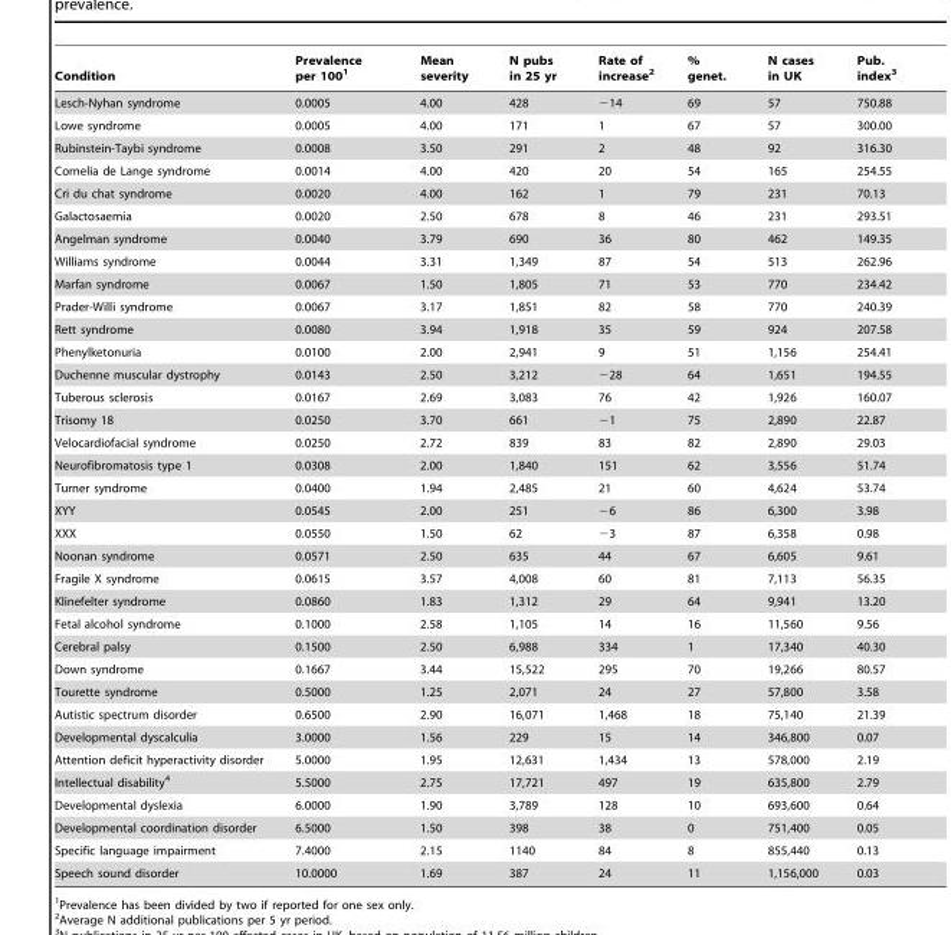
<table><thead><tr><td>Condition</td><td>Prevalence per 100<sup>1</sup></td><td>Mean severity</td><td>N pubs in 25 yr</td><td>Rate of increase<sup>2</sup></td><td>% genet.</td><td>N cases in UK</td><td>Pub. index<sup>3</sup></td></tr></thead><tbody><tr><td>Lesch-Nyhan syndrome</td><td>0.0005</td><td>4.00</td><td>428</td><td>−14</td><td>69</td><td>57</td><td>750.88</td></tr><tr><td>Lowe syndrome</td><td>0.0005</td><td>4.00</td><td>171</td><td>1</td><td>67</td><td>57</td><td>300.00</td></tr><tr><td>Rubinstein-Taybi syndrome</td><td>0.0008</td><td>3.50</td><td>291</td><td>2</td><td>48</td><td>92</td><td>316.30</td></tr><tr><td>Cornelia de Lange syndrome</td><td>0.0014</td><td>4.00</td><td>420</td><td>20</td><td>54</td><td>165</td><td>254.55</td></tr><tr><td>Cri du chat syndrome</td><td>0.0020</td><td>4.00</td><td>162</td><td>1</td><td>79</td><td>231</td><td>70.13</td></tr><tr><td>Galactosaemia</td><td>0.0020</td><td>2.50</td><td>678</td><td>8</td><td>46</td><td>231</td><td>293.51</td></tr><tr><td>Angelman syndrome</td><td>0.0040</td><td>3.79</td><td>690</td><td>36</td><td>80</td><td>462</td><td>149.35</td></tr><tr><td>Williams syndrome</td><td>0.0044</td><td>3.31</td><td>1,349</td><td>87</td><td>54</td><td>513</td><td>262.96</td></tr><tr><td>Marfan syndrome</td><td>0.0067</td><td>1.50</td><td>1,805</td><td>71</td><td>53</td><td>770</td><td>234.42</td></tr><tr><td>Prader-Willi syndrome</td><td>0.0067</td><td>3.17</td><td>1,851</td><td>82</td><td>58</td><td>770</td><td>240.39</td></tr><tr><td>Rett syndrome</td><td>0.0080</td><td>3.94</td><td>1,918</td><td>35</td><td>59</td><td>924</td><td>207.58</td></tr><tr><td>Phenylketonuria</td><td>0.0100</td><td>2.00</td><td>2,941</td><td>9</td><td>51</td><td>1,156</td><td>254.41</td></tr><tr><td>Duchenne muscular dystrophy</td><td>0.0143</td><td>2.50</td><td>3,212</td><td>−28</td><td>64</td><td>1,651</td><td>194.55</td></tr><tr><td>Tuberous sclerosis</td><td>0.0167</td><td>2.69</td><td>3,083</td><td>76</td><td>42</td><td>1,926</td><td>160.07</td></tr><tr><td>Trisomy 18</td><td>0.0250</td><td>3.70</td><td>661</td><td>−1</td><td>75</td><td>2,890</td><td>22.87</td></tr><tr><td>Velocardiofacial syndrome</td><td>0.0250</td><td>2.72</td><td>839</td><td>83</td><td>82</td><td>2,890</td><td>29.03</td></tr><tr><td>Neurofibromatosis type 1</td><td>0.0308</td><td>2.00</td><td>1,840</td><td>151</td><td>62</td><td>3,556</td><td>51.74</td></tr><tr><td>Turner syndrome</td><td>0.0400</td><td>1.94</td><td>2,485</td><td>21</td><td>60</td><td>4,624</td><td>53.74</td></tr><tr><td>XYY</td><td>0.0545</td><td>2.00</td><td>251</td><td>−6</td><td>86</td><td>6,300</td><td>3.98</td></tr><tr><td>XXX</td><td>0.0550</td><td>1.50</td><td>62</td><td>−3</td><td>87</td><td>6,358</td><td>0.98</td></tr><tr><td>Noonan syndrome</td><td>0.0571</td><td>2.50</td><td>635</td><td>44</td><td>67</td><td>6,605</td><td>9.61</td></tr><tr><td>Fragile X syndrome</td><td>0.0615</td><td>3.57</td><td>4,008</td><td>60</td><td>81</td><td>7,113</td><td>56.35</td></tr><tr><td>Klinefelter syndrome</td><td>0.0860</td><td>1.83</td><td>1,312</td><td>29</td><td>64</td><td>9,941</td><td>13.20</td></tr><tr><td>Fetal alcohol syndrome</td><td>0.1000</td><td>2.58</td><td>1,105</td><td>14</td><td>16</td><td>11,560</td><td>9.56</td></tr><tr><td>Cerebral palsy</td><td>0.1500</td><td>2.50</td><td>6,988</td><td>334</td><td>1</td><td>17,340</td><td>40.30</td></tr><tr><td>Down syndrome</td><td>0.1667</td><td>3.44</td><td>15,522</td><td>295</td><td>70</td><td>19,266</td><td>80.57</td></tr><tr><td>Tourette syndrome</td><td>0.5000</td><td>1.25</td><td>2,071</td><td>24</td><td>27</td><td>57,800</td><td>3.58</td></tr><tr><td>Autistic spectrum disorder</td><td>0.6500</td><td>2.90</td><td>16,071</td><td>1,468</td><td>18</td><td>75,140</td><td>21.39</td></tr><tr><td>Developmental dyscalculia</td><td>3.0000</td><td>1.56</td><td>229</td><td>15</td><td>14</td><td>346,800</td><td>0.07</td></tr><tr><td>Attention deficit hyperactivity disorder</td><td>5.0000</td><td>1.95</td><td>12,631</td><td>1,434</td><td>13</td><td>578,000</td><td>2.19</td></tr><tr><td>Intellectual disability<sup>4</sup></td><td>5.5000</td><td>2.75</td><td>17,721</td><td>497</td><td>19</td><td>635,800</td><td>2.79</td></tr><tr><td>Developmental dyslexia</td><td>6.0000</td><td>1.90</td><td>3,789</td><td>128</td><td>10</td><td>693,600</td><td>0.64</td></tr><tr><td>Developmental coordination disorder</td><td>6.5000</td><td>1.50</td><td>398</td><td>38</td><td>0</td><td>751,400</td><td>0.05</td></tr><tr><td>Specific language impairment</td><td>7.4000</td><td>2.15</td><td>1140</td><td>84</td><td>8</td><td>855,440</td><td>0.13</td></tr><tr><td>Speech sound disorder</td><td>10.0000</td><td>1.69</td><td>387</td><td>24</td><td>11</td><td>1,156,000</td><td>0.03</td></tr></tbody></table>